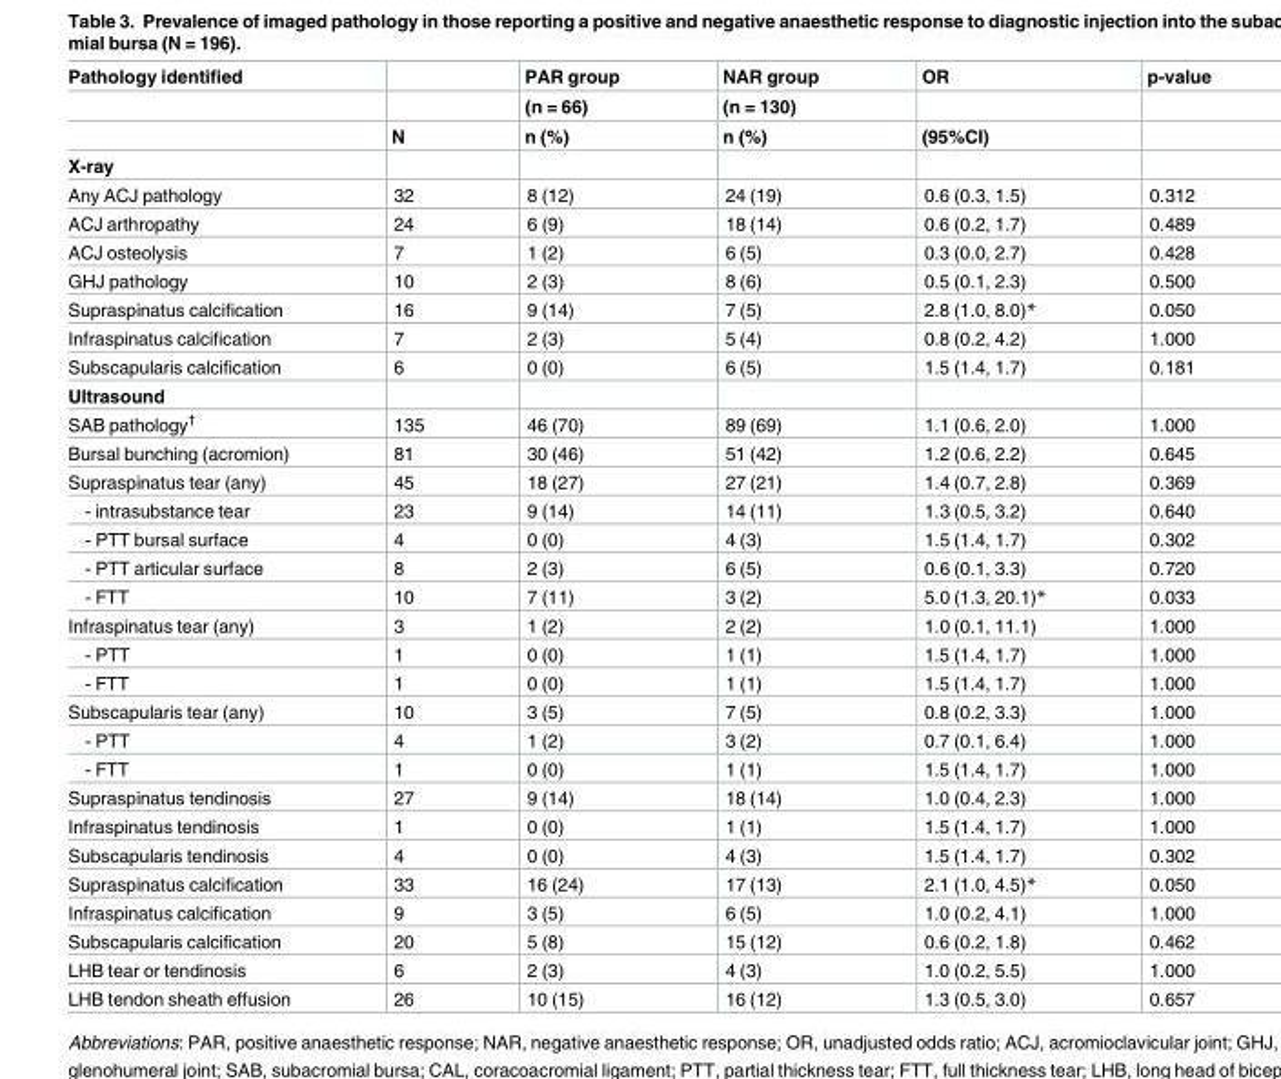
<table><thead><tr><td rowspan="3">Pathology identified</td><td rowspan="3">N</td><td rowspan="3">PAR group (n = 66) n (%)</td><td rowspan="3">NAR group (n = 130) n (%)</td><td rowspan="3">OR (95%CI)</td><td rowspan="3">p-value</td></tr><tr></tr><tr></tr></thead><tbody><tr><td colspan="6">X-ray</td></tr><tr><td>Any ACJ pathology</td><td>32</td><td>8 (12)</td><td>24 (19)</td><td>0.6 (0.3, 1.5)</td><td>0.312</td></tr><tr><td>ACJ arthropathy</td><td>24</td><td>6 (9)</td><td>18 (14)</td><td>0.6 (0.2, 1.7)</td><td>0.489</td></tr><tr><td>ACJ osteolysis</td><td>7</td><td>1 (2)</td><td>6 (5)</td><td>0.3 (0.0, 2.7)</td><td>0.428</td></tr><tr><td>GHJ pathology</td><td>10</td><td>2 (3)</td><td>8 (6)</td><td>0.5 (0.1, 2.3)</td><td>0.500</td></tr><tr><td>Supraspinatus calcification</td><td>16</td><td>9 (14)</td><td>7 (5)</td><td>2.8 (1.0, 8.0)*</td><td>0.050</td></tr><tr><td>Infraspinatus calcification</td><td>7</td><td>2 (3)</td><td>5 (4)</td><td>0.8 (0.2, 4.2)</td><td>1.000</td></tr><tr><td>Subscapularis calcification</td><td>6</td><td>0 (0)</td><td>6 (5)</td><td>1.5 (1.4, 1.7)</td><td>0.181</td></tr><tr><td colspan="6">Ultrasound</td></tr><tr><td>SAB pathology<sup>†</sup></td><td>135</td><td>46 (70)</td><td>89 (69)</td><td>1.1 (0.6, 2.0)</td><td>1.000</td></tr><tr><td>Bursal bunching (acromion)</td><td>81</td><td>30 (46)</td><td>51 (42)</td><td>1.2 (0.6, 2.2)</td><td>0.645</td></tr><tr><td>Supraspinatus tear (any)</td><td>45</td><td>18 (27)</td><td>27 (21)</td><td>1.4 (0.7, 2.8)</td><td>0.369</td></tr><tr><td>- intrasubstance tear</td><td>23</td><td>9 (14)</td><td>14 (11)</td><td>1.3 (0.5, 3.2)</td><td>0.640</td></tr><tr><td>- PTT bursal surface</td><td>4</td><td>0 (0)</td><td>4 (3)</td><td>1.5 (1.4, 1.7)</td><td>0.302</td></tr><tr><td>- PTT articular surface</td><td>8</td><td>2 (3)</td><td>6 (5)</td><td>0.6 (0.1, 3.3)</td><td>0.720</td></tr><tr><td>- FTT</td><td>10</td><td>7 (11)</td><td>3 (2)</td><td>5.0 (1.3, 20.1)*</td><td>0.033</td></tr><tr><td>Infraspinatus tear (any)</td><td>3</td><td>1 (2)</td><td>2 (2)</td><td>1.0 (0.1, 11.1)</td><td>1.000</td></tr><tr><td>- PTT</td><td>1</td><td>0 (0)</td><td>1 (1)</td><td>1.5 (1.4, 1.7)</td><td>1.000</td></tr><tr><td>- FTT</td><td>1</td><td>0 (0)</td><td>1 (1)</td><td>1.5 (1.4, 1.7)</td><td>1.000</td></tr><tr><td>Subscapularis tear (any)</td><td>10</td><td>3 (5)</td><td>7 (5)</td><td>0.8 (0.2, 3.3)</td><td>1.000</td></tr><tr><td>- PTT</td><td>4</td><td>1 (2)</td><td>3 (2)</td><td>0.7 (0.1, 6.4)</td><td>1.000</td></tr><tr><td>- FTT</td><td>1</td><td>0 (0)</td><td>1 (1)</td><td>1.5 (1.4, 1.7)</td><td>1.000</td></tr><tr><td>Supraspinatus tendinosis</td><td>27</td><td>9 (14)</td><td>18 (14)</td><td>1.0 (0.4, 2.3)</td><td>1.000</td></tr><tr><td>Infraspinatus tendinosis</td><td>1</td><td>0 (0)</td><td>1 (1)</td><td>1.5 (1.4, 1.7)</td><td>1.000</td></tr><tr><td>Subscapularis tendinosis</td><td>4</td><td>0 (0)</td><td>4 (3)</td><td>1.5 (1.4, 1.7)</td><td>0.302</td></tr><tr><td>Supraspinatus calcification</td><td>33</td><td>16 (24)</td><td>17 (13)</td><td>2.1 (1.0, 4.5)*</td><td>0.050</td></tr><tr><td>Infraspinatus calcification</td><td>9</td><td>3 (5)</td><td>6 (5)</td><td>1.0 (0.2, 4.1)</td><td>1.000</td></tr><tr><td>Subscapularis calcification</td><td>20</td><td>5 (8)</td><td>15 (12)</td><td>0.6 (0.2, 1.8)</td><td>0.462</td></tr><tr><td>LHB tear or tendinosis</td><td>6</td><td>2 (3)</td><td>4 (3)</td><td>1.0 (0.2, 5.5)</td><td>1.000</td></tr><tr><td>LHB tendon sheath effusion</td><td>26</td><td>10 (15)</td><td>16 (12)</td><td>1.3 (0.5, 3.0)</td><td>0.657</td></tr></tbody></table>